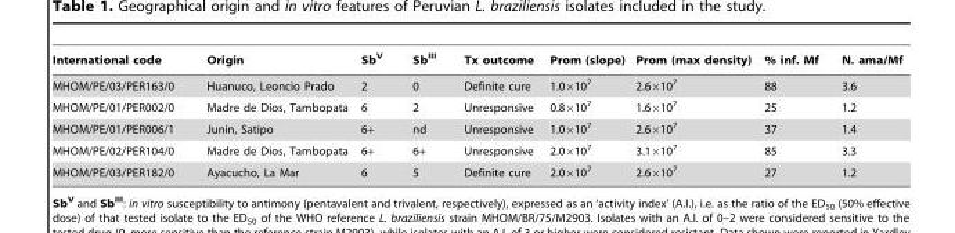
<table><thead><tr><td>International code</td><td>Origin</td><td>Sb<sup>V</sup></td><td>Sb<sup>III</sup></td><td>Tx outcome</td><td>Prom (slope)</td><td>Prom (max density)</td><td>% inf. Mf</td><td>N. ama/Mf</td></tr></thead><tbody><tr><td>MHOM/PE/03/PER163/0</td><td>Huanuco, Leoncio Prado</td><td>2</td><td>0</td><td>Definite cure</td><td>1.0×10<sup>7</sup></td><td>2.6×10<sup>7</sup></td><td>88</td><td>3.6</td></tr><tr><td>MHOM/PE/01/PER002/0</td><td>Madre de Dios, Tambopata</td><td>6</td><td>2</td><td>Unresponsive</td><td>0.8×10<sup>7</sup></td><td>1.6×10<sup>7</sup></td><td>25</td><td>1.2</td></tr><tr><td>MHOM/PE/01/PER006/1</td><td>Junin, Satipo</td><td>6+</td><td>nd</td><td>Unresponsive</td><td>1.0×10<sup>7</sup></td><td>2.6×10<sup>7</sup></td><td>37</td><td>1.4</td></tr><tr><td>MHOM/PE/02/PER104/0</td><td>Madre de Dios, Tambopata</td><td>6+</td><td>6+</td><td>Unresponsive</td><td>2.0×10<sup>7</sup></td><td>3.1×10<sup>7</sup></td><td>85</td><td>3.3</td></tr><tr><td>MHOM/PE/03/PER182/0</td><td>Ayacucho, La Mar</td><td>6</td><td>5</td><td>Definite cure</td><td>2.0×10<sup>7</sup></td><td>2.6×10<sup>7</sup></td><td>27</td><td>1.2</td></tr></tbody></table>